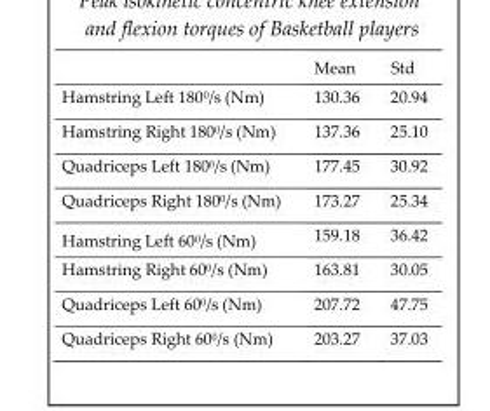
<table><thead><tr><td></td><td>Mean</td><td>Std</td></tr></thead><tbody><tr><td>Hamstring Left 180°/s (Nm)</td><td>130.36</td><td>20.94</td></tr><tr><td>Hamstring Right 180°/s (Nm)</td><td>137.36</td><td>25.10</td></tr><tr><td>Quadriceps Left 180°/s (Nm)</td><td>177.45</td><td>30.92</td></tr><tr><td>Quadriceps Right 180°/s (Nm)</td><td>173.27</td><td>25.34</td></tr><tr><td>Hamstring Left 60°/s (Nm)</td><td>159.18</td><td>36.42</td></tr><tr><td>Hamstring Right 60°/s (Nm)</td><td>163.81</td><td>30.05</td></tr><tr><td>Quadriceps Left 60°/s (Nm)</td><td>207.72</td><td>47.75</td></tr><tr><td>Quadriceps Right 60°/s (Nm)</td><td>203.27</td><td>37.03</td></tr></tbody></table>